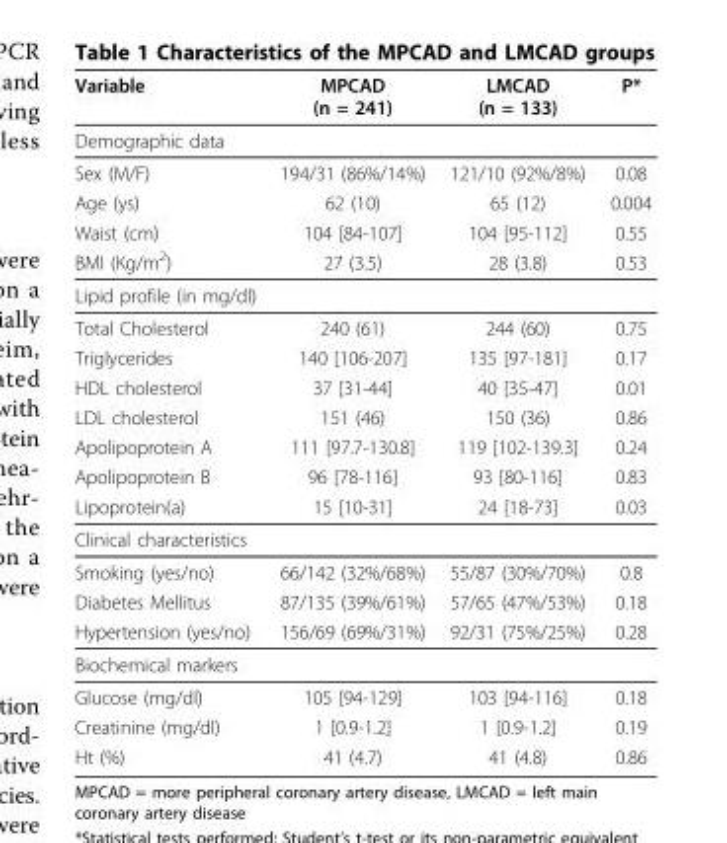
<table><thead><tr><td>Variable</td><td>MPCAD (n = 241)</td><td>LMCAD (n = 133)</td><td>P*</td></tr></thead><tbody><tr><td colspan="4">Demographic data</td></tr><tr><td>Sex (M/F)</td><td>194/31 (86%/14%)</td><td>121/10 (92%/8%)</td><td>0.08</td></tr><tr><td>Age (ys)</td><td>62 (10)</td><td>65 (12)</td><td>0.004</td></tr><tr><td>Waist (cm)</td><td>104 [84-107]</td><td>104 [95-112]</td><td>0.55</td></tr><tr><td>BMI (Kg/m<sup>2</sup>)</td><td>27 (3.5)</td><td>28 (3.8)</td><td>0.53</td></tr><tr><td colspan="4">Lipid profile (in mg/dl)</td></tr><tr><td>Total Cholesterol</td><td>240 (61)</td><td>244 (60)</td><td>0.75</td></tr><tr><td>Triglycerides</td><td>140 [106-207]</td><td>135 [97-181]</td><td>0.17</td></tr><tr><td>HDL cholesterol</td><td>37 [31-44]</td><td>40 [35-47]</td><td>0.01</td></tr><tr><td>LDL cholesterol</td><td>151 (46)</td><td>150 (36)</td><td>0.86</td></tr><tr><td>Apolipoprotein A</td><td>111 [97.7-130.8]</td><td>119 [102-139.3]</td><td>0.24</td></tr><tr><td>Apolipoprotein B</td><td>96 [78-116]</td><td>93 [80-116]</td><td>0.83</td></tr><tr><td>Lipoprotein(a)</td><td>15 [10-31]</td><td>24 [18-73]</td><td>0.03</td></tr><tr><td colspan="4">Clinical characteristics</td></tr><tr><td>Smoking (yes/no)</td><td>66/142 (32%/68%)</td><td>55/87 (30%/70%)</td><td>0.8</td></tr><tr><td>Diabetes Mellitus</td><td>87/135 (39%/61%)</td><td>57/65 (47%/53%)</td><td>0.18</td></tr><tr><td>Hypertension (yes/no)</td><td>156/69 (69%/31%)</td><td>92/31 (75%/25%)</td><td>0.28</td></tr><tr><td colspan="4">Biochemical markers</td></tr><tr><td>Glucose (mg/dl)</td><td>105 [94-129]</td><td>103 [94-116]</td><td>0.18</td></tr><tr><td>Creatinine (mg/dl)</td><td>1 [0.9-1.2]</td><td>1 [0.9-1.2]</td><td>0.19</td></tr><tr><td>Ht (%)</td><td>41 (4.7)</td><td>41 (4.8)</td><td>0.86</td></tr></tbody></table>